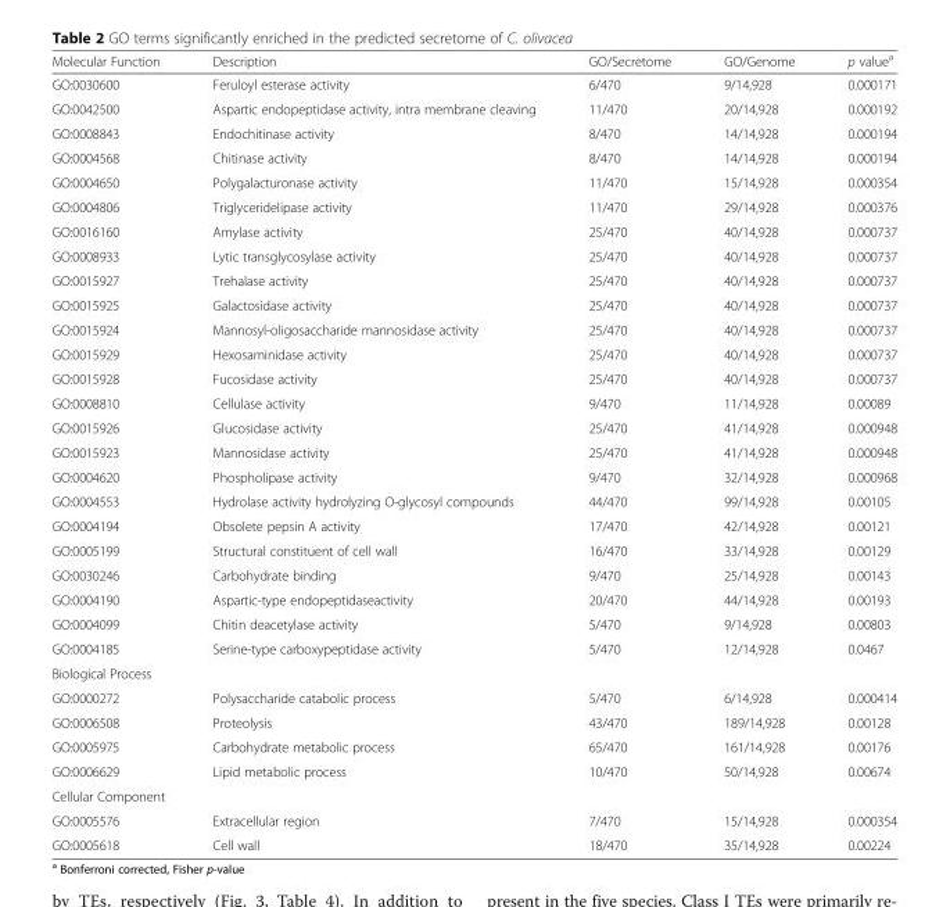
<table><thead><tr><td>Molecular Function</td><td>Description</td><td>GO/Secretome</td><td>GO/Genome</td><td>p value<sup>a</sup></td></tr></thead><tbody><tr><td>GO:0030600</td><td>Feruloyl esterase activity</td><td>6/470</td><td>9/14,928</td><td>0.000171</td></tr><tr><td>GO:0042500</td><td>Aspartic endopeptidase activity, intra membrane cleaving</td><td>11/470</td><td>20/14,928</td><td>0.000192</td></tr><tr><td>GO:0008843</td><td>Endochitinase activity</td><td>8/470</td><td>14/14,928</td><td>0.000194</td></tr><tr><td>GO:0004568</td><td>Chitinase activity</td><td>8/470</td><td>14/14,928</td><td>0.000194</td></tr><tr><td>GO:0004650</td><td>Polygalacturonase activity</td><td>11/470</td><td>15/14,928</td><td>0.000354</td></tr><tr><td>GO:0004806</td><td>Triglyceridelipase activity</td><td>11/470</td><td>29/14,928</td><td>0.000376</td></tr><tr><td>GO:0016160</td><td>Amylase activity</td><td>25/470</td><td>40/14,928</td><td>0.000737</td></tr><tr><td>GO:0008933</td><td>Lytic transglycosylase activity</td><td>25/470</td><td>40/14,928</td><td>0.000737</td></tr><tr><td>GO:0015927</td><td>Trehalase activity</td><td>25/470</td><td>40/14,928</td><td>0.000737</td></tr><tr><td>GO:0015925</td><td>Galactosidase activity</td><td>25/470</td><td>40/14,928</td><td>0.000737</td></tr><tr><td>GO:0015924</td><td>Mannosyl-oligosaccharide mannosidase activity</td><td>25/470</td><td>40/14,928</td><td>0.000737</td></tr><tr><td>GO:0015929</td><td>Hexosaminidase activity</td><td>25/470</td><td>40/14,928</td><td>0.000737</td></tr><tr><td>GO:0015928</td><td>Fucosidase activity</td><td>25/470</td><td>40/14,928</td><td>0.000737</td></tr><tr><td>GO:0008810</td><td>Cellulase activity</td><td>9/470</td><td>11/14,928</td><td>0.00089</td></tr><tr><td>GO:0015926</td><td>Glucosidase activity</td><td>25/470</td><td>41/14,928</td><td>0.000948</td></tr><tr><td>GO:0015923</td><td>Mannosidase activity</td><td>25/470</td><td>41/14,928</td><td>0.000948</td></tr><tr><td>GO:0004620</td><td>Phospholipase activity</td><td>9/470</td><td>32/14,928</td><td>0.000968</td></tr><tr><td>GO:0004553</td><td>Hydrolase activity hydrolyzing O-glycosyl compounds</td><td>44/470</td><td>99/14,928</td><td>0.00105</td></tr><tr><td>GO:0004194</td><td>Obsolete pepsin A activity</td><td>17/470</td><td>42/14,928</td><td>0.00121</td></tr><tr><td>GO:0005199</td><td>Structural constituent of cell wall</td><td>16/470</td><td>33/14,928</td><td>0.00129</td></tr><tr><td>GO:0030246</td><td>Carbohydrate binding</td><td>9/470</td><td>25/14,928</td><td>0.00143</td></tr><tr><td>GO:0004190</td><td>Aspartic-type endopeptidaseactivity</td><td>20/470</td><td>44/14,928</td><td>0.00193</td></tr><tr><td>GO:0004099</td><td>Chitin deacetylase activity</td><td>5/470</td><td>9/14,928</td><td>0.00803</td></tr><tr><td>GO:0004185</td><td>Serine-type carboxypeptidase activity</td><td>5/470</td><td>12/14,928</td><td>0.0467</td></tr><tr><td colspan="5">Biological Process</td></tr><tr><td>GO:0000272</td><td>Polysaccharide catabolic process</td><td>5/470</td><td>6/14,928</td><td>0.000414</td></tr><tr><td>GO:0006508</td><td>Proteolysis</td><td>43/470</td><td>189/14,928</td><td>0.00128</td></tr><tr><td>GO:0005975</td><td>Carbohydrate metabolic process</td><td>65/470</td><td>161/14,928</td><td>0.00176</td></tr><tr><td>GO:0006629</td><td>Lipid metabolic process</td><td>10/470</td><td>50/14,928</td><td>0.00674</td></tr><tr><td colspan="5">Cellular Component</td></tr><tr><td>GO:0005576</td><td>Extracellular region</td><td>7/470</td><td>15/14,928</td><td>0.000354</td></tr><tr><td>GO:0005618</td><td>Cell wall</td><td>18/470</td><td>35/14,928</td><td>0.00224</td></tr></tbody></table>